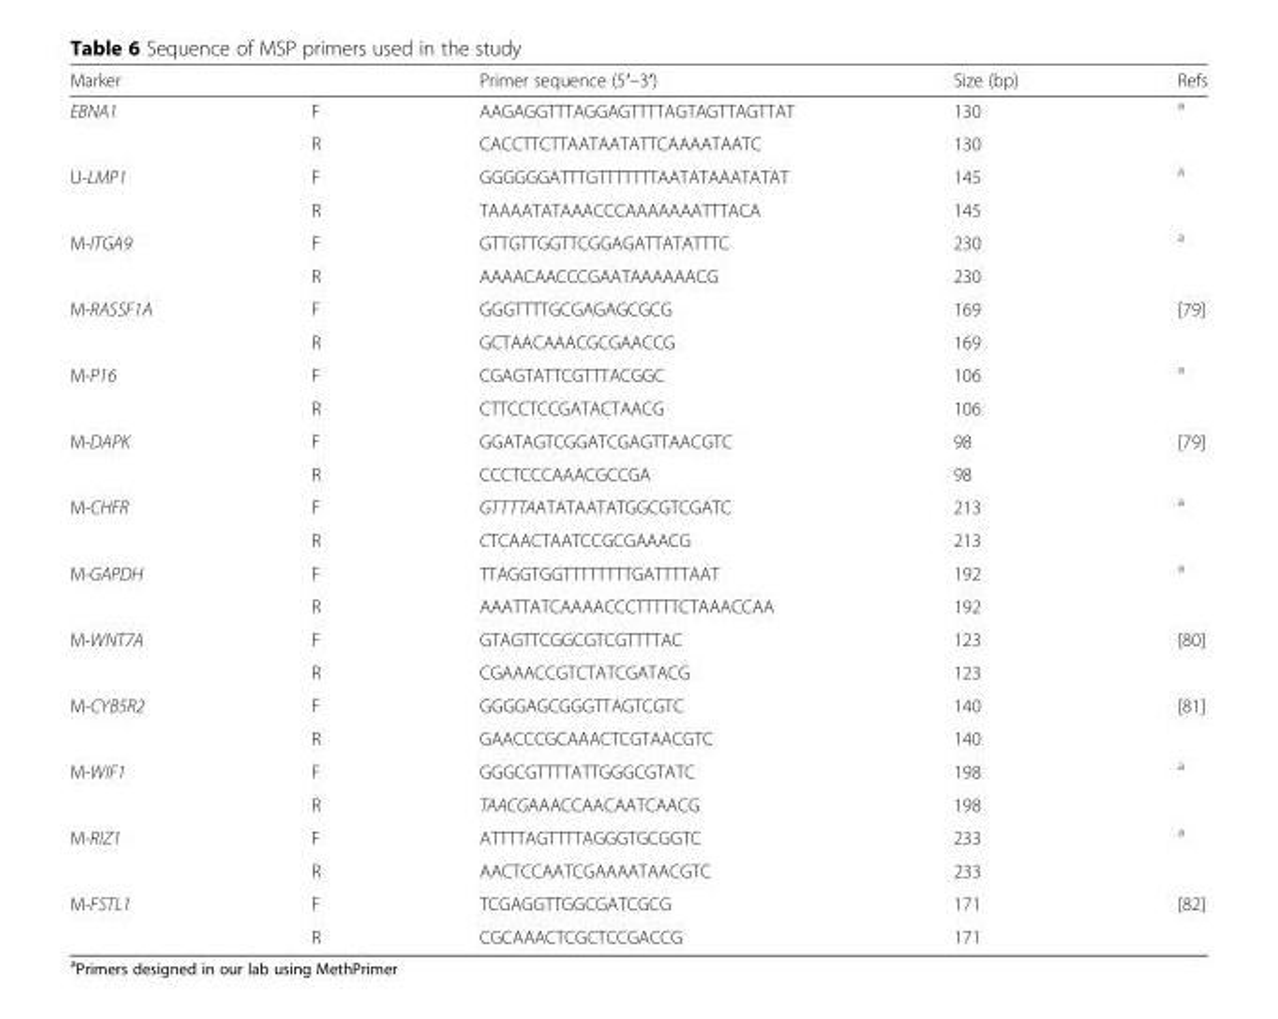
<table><thead><tr><td>Marker</td><td></td><td>Primer sequence (5′–3′)</td><td>Size (bp)</td><td>Refs</td></tr></thead><tbody><tr><td rowspan="2">EBNA1</td><td>F</td><td>AAGAGGTTTAGGAGTTTTAGTAGTTAGTTAT</td><td>130</td><td rowspan="2"><sup>a</sup></td></tr><tr><td>R</td><td>CACCTTCTTAATAATATTCAAAATAATC</td><td>130</td></tr><tr><td rowspan="2">U-LMP1</td><td>F</td><td>GGGGGGATTTGTTTTTTTAATATAAATATAT</td><td>145</td><td rowspan="2"><sup>a</sup></td></tr><tr><td>R</td><td>TAAAATATAAACCCAAAAAAATTTACA</td><td>145</td></tr><tr><td rowspan="2">M-ITGA9</td><td>F</td><td>GTTGTTGGTTCGGAGATTATATTTC</td><td>230</td><td rowspan="2"><sup>a</sup></td></tr><tr><td>R</td><td>AAAACAACCCGAATAAAAAACG</td><td>230</td></tr><tr><td rowspan="2">M-RASSF1A</td><td>F</td><td>GGGTTTTGCGAGAGCGCG</td><td>169</td><td rowspan="2">[79]</td></tr><tr><td>R</td><td>GCTAACAAACGCGAACCG</td><td>169</td></tr><tr><td rowspan="2">M-P16</td><td>F</td><td>CGAGTATTCGTTTACGGC</td><td>106</td><td rowspan="2"><sup>a</sup></td></tr><tr><td>R</td><td>CTTCCTCCGATACTAACG</td><td>106</td></tr><tr><td rowspan="2">M-DAPK</td><td>F</td><td>GGATAGTCGGATCGAGTTAACGTC</td><td>98</td><td rowspan="2">[79]</td></tr><tr><td>R</td><td>CCCTCCCAAACGCCGA</td><td>98</td></tr><tr><td rowspan="2">M-CHFR</td><td>F</td><td>GTTTTAATATAATATGGCGTCGATC</td><td>213</td><td rowspan="2"><sup>a</sup></td></tr><tr><td>R</td><td>CTCAACTAATCCGCGAAACG</td><td>213</td></tr><tr><td rowspan="2">M-GAPDH</td><td>F</td><td>TTAGGTGGTTTTTTTTGATTTTAAT</td><td>192</td><td rowspan="2"><sup>a</sup></td></tr><tr><td>R</td><td>AAATTATCAAAACCCTTTTTCTAAACCAA</td><td>192</td></tr><tr><td rowspan="2">M-WNT7A</td><td>F</td><td>GTAGTTCGGCGTCGTTTTAC</td><td>123</td><td rowspan="2">[80]</td></tr><tr><td>R</td><td>CGAAACCGTCTATCGATACG</td><td>123</td></tr><tr><td rowspan="2">M-CYB5R2</td><td>F</td><td>GGGGAGCGGGTTAGTCGTC</td><td>140</td><td rowspan="2">[81]</td></tr><tr><td>R</td><td>GAACCCGCAAACTCGTAACGTC</td><td>140</td></tr><tr><td rowspan="2">M-WIF1</td><td>F</td><td>GGGCGTTTTATTGGGCGTATC</td><td>198</td><td rowspan="2"><sup>a</sup></td></tr><tr><td>R</td><td>TAACGAAACCAACAATCAACG</td><td>198</td></tr><tr><td rowspan="2">M-RIZ1</td><td>F</td><td>ATTTTAGTTTTAGGGTGCGGTC</td><td>233</td><td rowspan="2"><sup>a</sup></td></tr><tr><td>R</td><td>AACTCCAATCGAAAATAACGTC</td><td>233</td></tr><tr><td rowspan="2">M-FSTL1</td><td>F</td><td>TCGAGGTTGGCGATCGCG</td><td>171</td><td rowspan="2">[82]</td></tr><tr><td>R</td><td>CGCAAACTCGCTCCGACCG</td><td>171</td></tr></tbody></table>